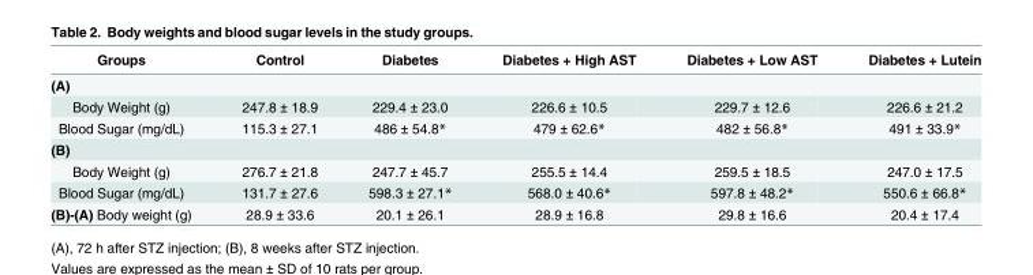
<table><thead><tr><td>Groups</td><td>Control</td><td>Diabetes</td><td>Diabetes + High AST</td><td>Diabetes + Low AST</td><td>Diabetes + Lutein</td></tr></thead><tbody><tr><td colspan="6">(A)</td></tr><tr><td>Body Weight (g)</td><td>247.8 ± 18.9</td><td>229.4 ± 23.0</td><td>226.6 ± 10.5</td><td>229.7 ± 12.6</td><td>226.6 ± 21.2</td></tr><tr><td>Blood Sugar (mg/dL)</td><td>115.3 ± 27.1</td><td>486 ± 54.8*</td><td>479 ± 62.6*</td><td>482 ± 56.8*</td><td>491 ± 33.9*</td></tr><tr><td colspan="6">(B)</td></tr><tr><td>Body Weight (g)</td><td>276.7 ± 21.8</td><td>247.7 ± 45.7</td><td>255.5 ± 14.4</td><td>259.5 ± 18.5</td><td>247.0 ± 17.5</td></tr><tr><td>Blood Sugar (mg/dL)</td><td>131.7 ± 27.6</td><td>598.3 ± 27.1*</td><td>568.0 ± 40.6*</td><td>597.8 ± 48.2*</td><td>550.6 ± 66.8*</td></tr><tr><td>(B)-(A) Body weight (g)</td><td>28.9 ± 33.6</td><td>20.1 ± 26.1</td><td>28.9 ± 16.8</td><td>29.8 ± 16.6</td><td>20.4 ± 17.4</td></tr></tbody></table>